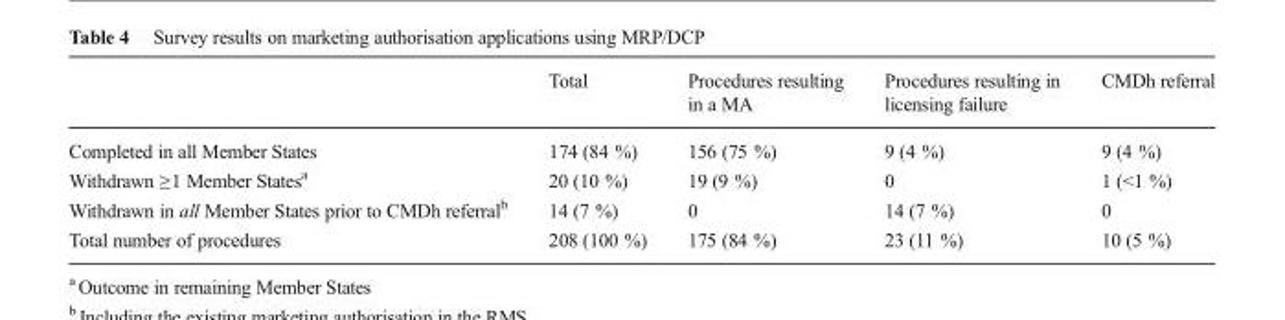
<table><thead><tr><td></td><td>Total</td><td>Procedures resulting in a MA</td><td>Procedures resulting in licensing failure</td><td>CMDh referral</td></tr></thead><tbody><tr><td>Completed in all Member States</td><td>174 (84 %)</td><td>156 (75 %)</td><td>9 (4 %)</td><td>9 (4 %)</td></tr><tr><td>Withdrawn ≥1 Member States<sup>a</sup></td><td>20 (10 %)</td><td>19 (9 %)</td><td>0</td><td>1 (&lt;1 %)</td></tr><tr><td>Withdrawn in all Member States prior to CMDh referral<sup>b</sup></td><td>14 (7 %)</td><td>0</td><td>14 (7 %)</td><td>0</td></tr><tr><td>Total number of procedures</td><td>208 (100 %)</td><td>175 (84 %)</td><td>23 (11 %)</td><td>10 (5 %)</td></tr></tbody></table>